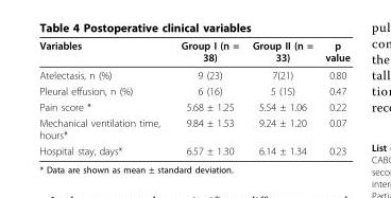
<table><thead><tr><td>Variables</td><td>Group I (n = 38)</td><td>Group II (n = 33)</td><td>p value</td></tr></thead><tbody><tr><td>Atelectasis, n (%)</td><td>9 (23)</td><td>7(21)</td><td>0.80</td></tr><tr><td>Pleural effusion, n (%)</td><td>6 (16)</td><td>5 (15)</td><td>0.47</td></tr><tr><td>Pain score *</td><td>5.68 ± 1.25</td><td>5.54 ± 1.06</td><td>0.22</td></tr><tr><td>Mechanical ventilation time, hours*</td><td>9.84 ± 1.53</td><td>9.24 ± 1.20</td><td>0.07</td></tr><tr><td>Hospital stay, days*</td><td>6.57 ± 1.30</td><td>6.14 ± 1.34</td><td>0.23</td></tr></tbody></table>